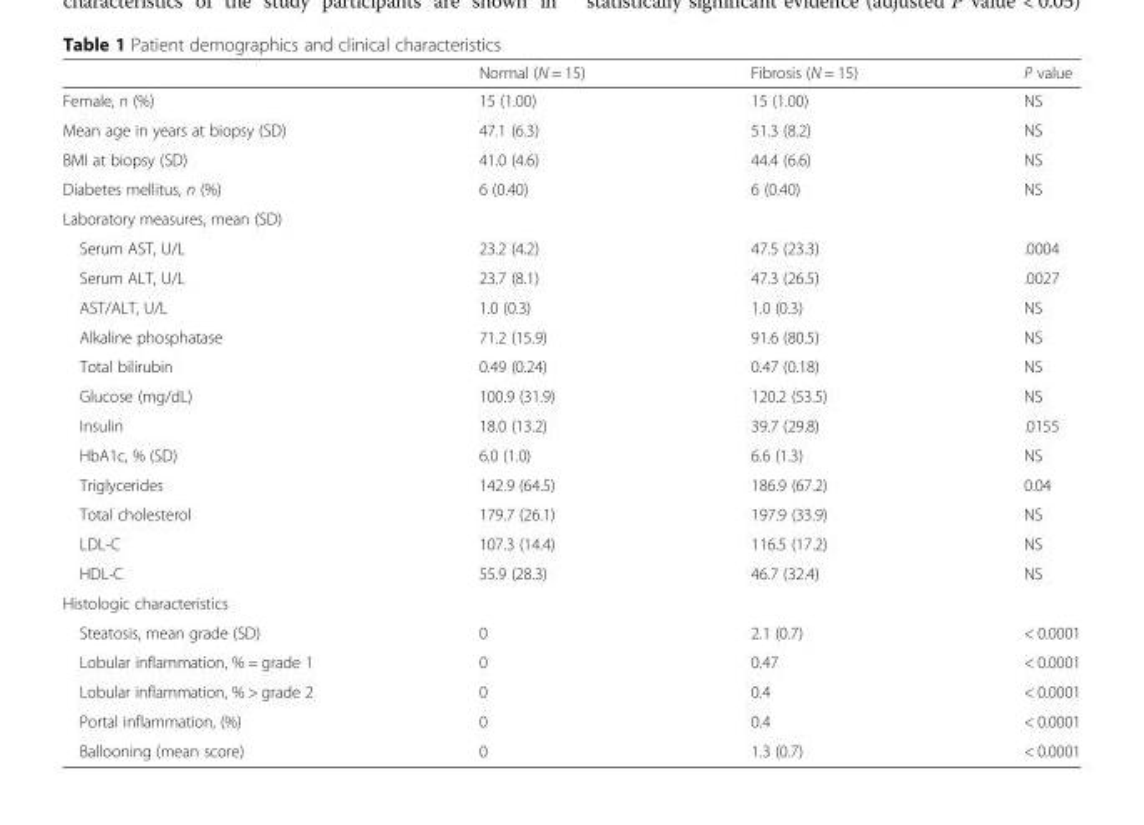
<table><thead><tr><td></td><td>Normal (N = 15)</td><td>Fibrosis (N = 15)</td><td>P value</td></tr></thead><tbody><tr><td>Female, n (%)</td><td>15 (1.00)</td><td>15 (1.00)</td><td>NS</td></tr><tr><td>Mean age in years at biopsy (SD)</td><td>47.1 (6.3)</td><td>51.3 (8.2)</td><td>NS</td></tr><tr><td>BMI at biopsy (SD)</td><td>41.0 (4.6)</td><td>44.4 (6.6)</td><td>NS</td></tr><tr><td>Diabetes mellitus, n (%)</td><td>6 (0.40)</td><td>6 (0.40)</td><td>NS</td></tr><tr><td colspan="4">Laboratory measures, mean (SD)</td></tr><tr><td>Serum AST, U/L</td><td>23.2 (4.2)</td><td>47.5 (23.3)</td><td>.0004</td></tr><tr><td>Serum ALT, U/L</td><td>23.7 (8.1)</td><td>47.3 (26.5)</td><td>.0027</td></tr><tr><td>AST/ALT, U/L</td><td>1.0 (0.3)</td><td>1.0 (0.3)</td><td>NS</td></tr><tr><td>Alkaline phosphatase</td><td>71.2 (15.9)</td><td>91.6 (80.5)</td><td>NS</td></tr><tr><td>Total bilirubin</td><td>0.49 (0.24)</td><td>0.47 (0.18)</td><td>NS</td></tr><tr><td>Glucose (mg/dL)</td><td>100.9 (31.9)</td><td>120.2 (53.5)</td><td>NS</td></tr><tr><td>Insulin</td><td>18.0 (13.2)</td><td>39.7 (29.8)</td><td>.0155</td></tr><tr><td>HbA1c, % (SD)</td><td>6.0 (1.0)</td><td>6.6 (1.3)</td><td>NS</td></tr><tr><td>Triglycerides</td><td>142.9 (64.5)</td><td>186.9 (67.2)</td><td>0.04</td></tr><tr><td>Total cholesterol</td><td>179.7 (26.1)</td><td>197.9 (33.9)</td><td>NS</td></tr><tr><td>LDL-C</td><td>107.3 (14.4)</td><td>116.5 (17.2)</td><td>NS</td></tr><tr><td>HDL-C</td><td>55.9 (28.3)</td><td>46.7 (32.4)</td><td>NS</td></tr><tr><td colspan="4">Histologic characteristics</td></tr><tr><td>Steatosis, mean grade (SD)</td><td>0</td><td>2.1 (0.7)</td><td>&lt; 0.0001</td></tr><tr><td>Lobular inflammation, % = grade 1</td><td>0</td><td>0.47</td><td>&lt; 0.0001</td></tr><tr><td>Lobular inflammation, % &gt; grade 2</td><td>0</td><td>0.4</td><td>&lt; 0.0001</td></tr><tr><td>Portal inflammation, (%)</td><td>0</td><td>0.4</td><td>&lt; 0.0001</td></tr><tr><td>Ballooning (mean score)</td><td>0</td><td>1.3 (0.7)</td><td>&lt; 0.0001</td></tr></tbody></table>